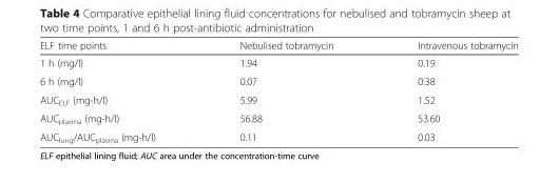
<table><thead><tr><td>ELF time points</td><td>Nebulised tobramycin</td><td>Intravenous tobramycin</td></tr></thead><tbody><tr><td>1 h (mg/l)</td><td>1.94</td><td>0.19</td></tr><tr><td>6 h (mg/l)</td><td>0.07</td><td>0.38</td></tr><tr><td>AUC<sub>ELF</sub> (mg-h/l)</td><td>5.99</td><td>1.52</td></tr><tr><td>AUC<sub>plasma</sub> (mg-h/l)</td><td>56.88</td><td>53.60</td></tr><tr><td>AUC<sub>lung</sub>/AUC<sub>plasma</sub> (mg-h/l)</td><td>0.11</td><td>0.03</td></tr></tbody></table>